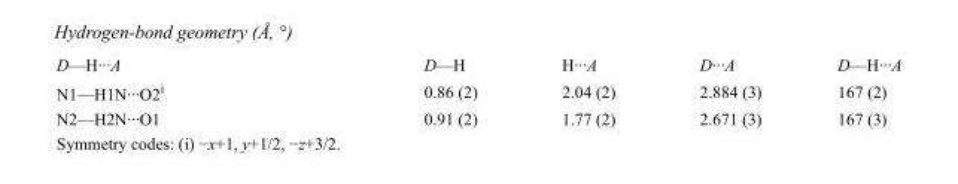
<table><tbody><tr><td>D—H···A</td><td>D—H</td><td>H···A</td><td>D···A</td><td>D—H···A</td></tr><tr><td>N1—H1N···O2<sup>i</sup></td><td>0.86 (2)</td><td>2.04 (2)</td><td>2.884 (3)</td><td>167 (2)</td></tr><tr><td>N2—H2N···O1</td><td>0.91 (2)</td><td>1.77 (2)</td><td>2.671 (3)</td><td>167 (3)</td></tr></tbody></table>